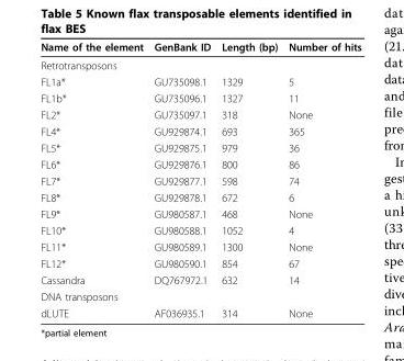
<table><thead><tr><td>Name of the element</td><td>GenBank ID</td><td>Length (bp)</td><td>Number of hits</td></tr></thead><tbody><tr><td colspan="4">Retrotransposons</td></tr><tr><td>FL1a*</td><td>GU735098.1</td><td>1329</td><td>5</td></tr><tr><td>FL1b*</td><td>GU735096.1</td><td>1327</td><td>11</td></tr><tr><td>FL2*</td><td>GU735097.1</td><td>318</td><td>None</td></tr><tr><td>FL4*</td><td>GU929874.1</td><td>693</td><td>365</td></tr><tr><td>FL5*</td><td>GU929875.1</td><td>979</td><td>36</td></tr><tr><td>FL6*</td><td>GU929876.1</td><td>800</td><td>86</td></tr><tr><td>FL7*</td><td>GU929877.1</td><td>598</td><td>74</td></tr><tr><td>FL8*</td><td>GU929878.1</td><td>672</td><td>6</td></tr><tr><td>FL9*</td><td>GU980587.1</td><td>468</td><td>None</td></tr><tr><td>FL10*</td><td>GU980588.1</td><td>1052</td><td>4</td></tr><tr><td>FL11*</td><td>GU980589.1</td><td>1300</td><td>None</td></tr><tr><td>FL12*</td><td>GU980590.1</td><td>854</td><td>67</td></tr><tr><td>Cassandra</td><td>DQ767972.1</td><td>632</td><td>14</td></tr><tr><td colspan="4">DNA transposons</td></tr><tr><td>dLUTE</td><td>AF036935.1</td><td>314</td><td>None</td></tr></tbody></table>